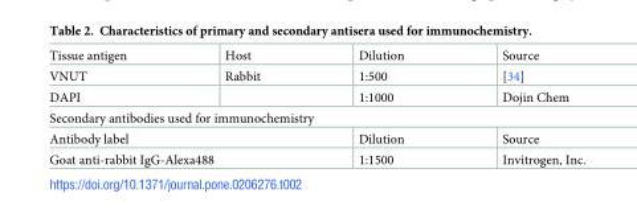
<table><tbody><tr><td>Tissue antigen</td><td>Host</td><td>Dilution</td><td>Source</td></tr><tr><td>VNUT</td><td>Rabbit</td><td>1:500</td><td>[34]</td></tr><tr><td>DAPI</td><td></td><td>1:1000</td><td>Dojin Chem</td></tr><tr><td colspan="4">Secondary antibodies used for immunochemistry</td></tr><tr><td colspan="2">Antibody label</td><td>Dilution</td><td>Source</td></tr><tr><td colspan="2">Goat anti-rabbit IgG-Alexa488</td><td>1:1500</td><td>Invitrogen, Inc.</td></tr></tbody></table>